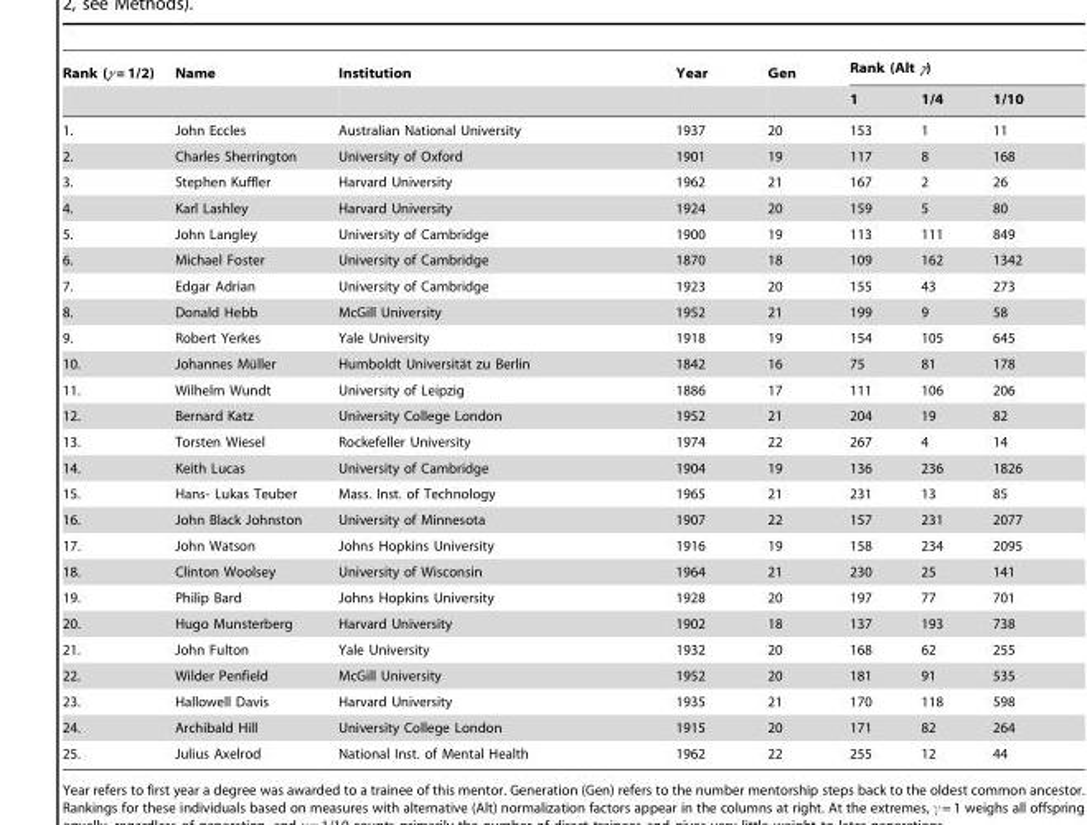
<table><thead><tr><td rowspan="2">Rank (γ = 1/2)</td><td rowspan="2">Name</td><td rowspan="2">Institution</td><td rowspan="2">Year</td><td rowspan="2">Gen</td><td colspan="3">Rank (Alt γ)</td></tr><tr><td>1</td><td>1/4</td><td>1/10</td></tr></thead><tbody><tr><td>1.</td><td>John Eccles</td><td>Australian National University</td><td>1937</td><td>20</td><td>153</td><td>1</td><td>11</td></tr><tr><td>2.</td><td>Charles Sherrington</td><td>University of Oxford</td><td>1901</td><td>19</td><td>117</td><td>8</td><td>168</td></tr><tr><td>3.</td><td>Stephen Kuffler</td><td>Harvard University</td><td>1962</td><td>21</td><td>167</td><td>2</td><td>26</td></tr><tr><td>4.</td><td>Karl Lashley</td><td>Harvard University</td><td>1924</td><td>20</td><td>159</td><td>5</td><td>80</td></tr><tr><td>5.</td><td>John Langley</td><td>University of Cambridge</td><td>1900</td><td>19</td><td>113</td><td>111</td><td>849</td></tr><tr><td>6.</td><td>Michael Foster</td><td>University of Cambridge</td><td>1870</td><td>18</td><td>109</td><td>162</td><td>1342</td></tr><tr><td>7.</td><td>Edgar Adrian</td><td>University of Cambridge</td><td>1923</td><td>20</td><td>155</td><td>43</td><td>273</td></tr><tr><td>8.</td><td>Donald Hebb</td><td>McGill University</td><td>1952</td><td>21</td><td>199</td><td>9</td><td>58</td></tr><tr><td>9.</td><td>Robert Yerkes</td><td>Yale University</td><td>1918</td><td>19</td><td>154</td><td>105</td><td>645</td></tr><tr><td>10.</td><td>Johannes Mu¨ller</td><td>Humboldt Universita¨t zu Berlin</td><td>1842</td><td>16</td><td>75</td><td>81</td><td>178</td></tr><tr><td>11.</td><td>Wilhelm Wundt</td><td>University of Leipzig</td><td>1886</td><td>17</td><td>111</td><td>106</td><td>206</td></tr><tr><td>12.</td><td>Bernard Katz</td><td>University College London</td><td>1952</td><td>21</td><td>204</td><td>19</td><td>82</td></tr><tr><td>13.</td><td>Torsten Wiesel</td><td>Rockefeller University</td><td>1974</td><td>22</td><td>267</td><td>4</td><td>14</td></tr><tr><td>14.</td><td>Keith Lucas</td><td>University of Cambridge</td><td>1904</td><td>19</td><td>136</td><td>236</td><td>1826</td></tr><tr><td>15.</td><td>Hans- Lukas Teuber</td><td>Mass. Inst. of Technology</td><td>1965</td><td>21</td><td>231</td><td>13</td><td>85</td></tr><tr><td>16.</td><td>John Black Johnston</td><td>University of Minnesota</td><td>1907</td><td>22</td><td>157</td><td>231</td><td>2077</td></tr><tr><td>17.</td><td>John Watson</td><td>Johns Hopkins University</td><td>1916</td><td>19</td><td>158</td><td>234</td><td>2095</td></tr><tr><td>18.</td><td>Clinton Woolsey</td><td>University of Wisconsin</td><td>1964</td><td>21</td><td>230</td><td>25</td><td>141</td></tr><tr><td>19.</td><td>Philip Bard</td><td>Johns Hopkins University</td><td>1928</td><td>20</td><td>197</td><td>77</td><td>701</td></tr><tr><td>20.</td><td>Hugo Munsterberg</td><td>Harvard University</td><td>1902</td><td>18</td><td>137</td><td>193</td><td>738</td></tr><tr><td>21.</td><td>John Fulton</td><td>Yale University</td><td>1932</td><td>20</td><td>168</td><td>62</td><td>255</td></tr><tr><td>22.</td><td>Wilder Penfield</td><td>McGill University</td><td>1952</td><td>20</td><td>181</td><td>91</td><td>535</td></tr><tr><td>23.</td><td>Hallowell Davis</td><td>Harvard University</td><td>1935</td><td>21</td><td>170</td><td>118</td><td>598</td></tr><tr><td>24.</td><td>Archibald Hill</td><td>University College London</td><td>1915</td><td>20</td><td>171</td><td>82</td><td>264</td></tr><tr><td>25.</td><td>Julius Axelrod</td><td>National Inst. of Mental Health</td><td>1962</td><td>22</td><td>255</td><td>12</td><td>44</td></tr></tbody></table>